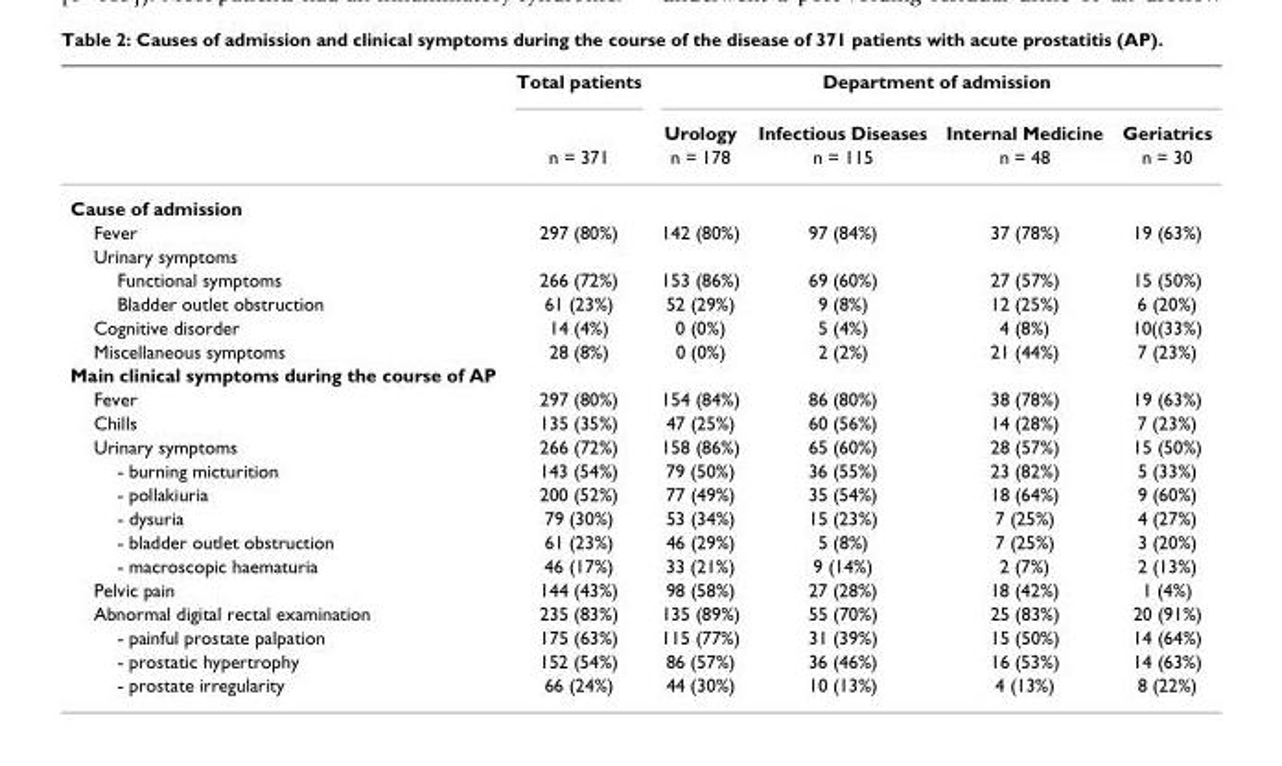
<table><thead><tr><td rowspan="3"></td><td rowspan="3">Total patients n = 371</td><td colspan="4">Department of admission</td></tr><tr><td rowspan="2">Urology n = 178</td><td rowspan="2">Infectious Diseases n = 115</td><td rowspan="2">Internal Medicine n = 48</td><td rowspan="2">Geriatrics n = 30</td></tr><tr></tr></thead><tbody><tr><td colspan="6">Cause of admission</td></tr><tr><td>Fever</td><td>297 (80%)</td><td>142 (80%)</td><td>97 (84%)</td><td>37 (78%)</td><td>19 (63%)</td></tr><tr><td colspan="6">Urinary symptoms</td></tr><tr><td>Functional symptoms</td><td>266 (72%)</td><td>153 (86%)</td><td>69 (60%)</td><td>27 (57%)</td><td>15 (50%)</td></tr><tr><td>Bladder outlet obstruction</td><td>61 (23%)</td><td>52 (29%)</td><td>9 (8%)</td><td>12 (25%)</td><td>6 (20%)</td></tr><tr><td>Cognitive disorder</td><td>14 (4%)</td><td>0 (0%)</td><td>5 (4%)</td><td>4 (8%)</td><td>10((33%)</td></tr><tr><td>Miscellaneous symptoms</td><td>28 (8%)</td><td>0 (0%)</td><td>2 (2%)</td><td>21 (44%)</td><td>7 (23%)</td></tr><tr><td colspan="6">Main clinical symptoms during the course of AP</td></tr><tr><td>Fever</td><td>297 (80%)</td><td>154 (84%)</td><td>86 (80%)</td><td>38 (78%)</td><td>19 (63%)</td></tr><tr><td>Chills</td><td>135 (35%)</td><td>47 (25%)</td><td>60 (56%)</td><td>14 (28%)</td><td>7 (23%)</td></tr><tr><td>Urinary symptoms</td><td>266 (72%)</td><td>158 (86%)</td><td>65 (60%)</td><td>28 (57%)</td><td>15 (50%)</td></tr><tr><td>- burning micturition</td><td>143 (54%)</td><td>79 (50%)</td><td>36 (55%)</td><td>23 (82%)</td><td>5 (33%)</td></tr><tr><td>- pollakiuria</td><td>200 (52%)</td><td>77 (49%)</td><td>35 (54%)</td><td>18 (64%)</td><td>9 (60%)</td></tr><tr><td>- dysuria</td><td>79 (30%)</td><td>53 (34%)</td><td>15 (23%)</td><td>7 (25%)</td><td>4 (27%)</td></tr><tr><td>- bladder outlet obstruction</td><td>61 (23%)</td><td>46 (29%)</td><td>5 (8%)</td><td>7 (25%)</td><td>3 (20%)</td></tr><tr><td>- macroscopic haematuria</td><td>46 (17%)</td><td>33 (21%)</td><td>9 (14%)</td><td>2 (7%)</td><td>2 (13%)</td></tr><tr><td>Pelvic pain</td><td>144 (43%)</td><td>98 (58%)</td><td>27 (28%)</td><td>18 (42%)</td><td>1 (4%)</td></tr><tr><td>Abnormal digital rectal examination</td><td>235 (83%)</td><td>135 (89%)</td><td>55 (70%)</td><td>25 (83%)</td><td>20 (91%)</td></tr><tr><td>- painful prostate palpation</td><td>175 (63%)</td><td>115 (77%)</td><td>31 (39%)</td><td>15 (50%)</td><td>14 (64%)</td></tr><tr><td>- prostatic hypertrophy</td><td>152 (54%)</td><td>86 (57%)</td><td>36 (46%)</td><td>16 (53%)</td><td>14 (63%)</td></tr><tr><td>- prostate irregularity</td><td>66 (24%)</td><td>44 (30%)</td><td>10 (13%)</td><td>4 (13%)</td><td>8 (22%)</td></tr></tbody></table>